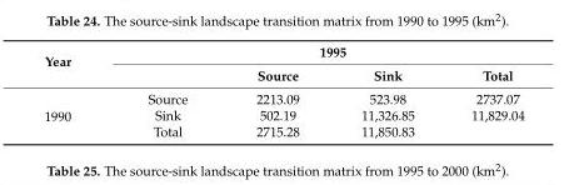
<table><thead><tr><td rowspan="2">Year</td><td colspan="4">1995</td></tr><tr><td></td><td>Source</td><td>Sink</td><td>Total</td></tr></thead><tbody><tr><td rowspan="3">1990</td><td>Source</td><td>2213.09</td><td>523.98</td><td>2737.07</td></tr><tr><td>Sink</td><td>502.19</td><td>11,326.85</td><td>11,829.04</td></tr><tr><td>Total</td><td>2715.28</td><td>11,850.83</td><td></td></tr></tbody></table>